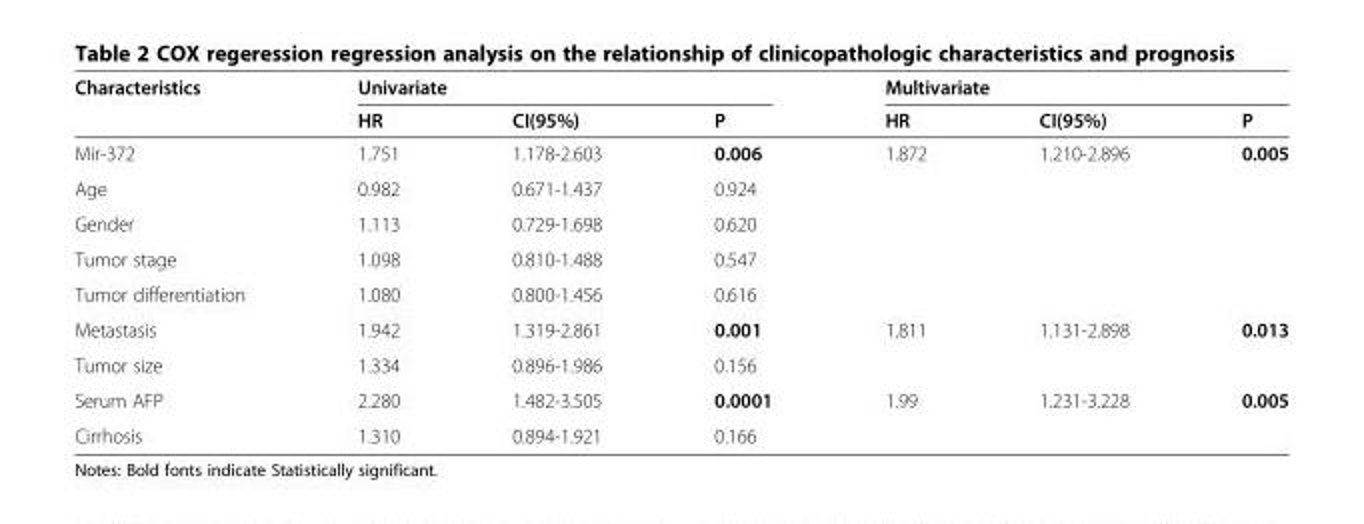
<table><thead><tr><td rowspan="2">Characteristics</td><td colspan="3">Univariate</td><td colspan="3">Multivariate</td></tr><tr><td>HR</td><td>CI(95%)</td><td>P</td><td>HR</td><td>CI(95%)</td><td>P</td></tr></thead><tbody><tr><td>Mir-372</td><td>1.751</td><td>1.178-2.603</td><td>0.006</td><td>1.872</td><td>1.210-2.896</td><td>0.005</td></tr><tr><td>Age</td><td>0.982</td><td>0.671-1.437</td><td>0.924</td><td></td><td></td><td></td></tr><tr><td>Gender</td><td>1.113</td><td>0.729-1.698</td><td>0.620</td><td></td><td></td><td></td></tr><tr><td>Tumor stage</td><td>1.098</td><td>0.810-1.488</td><td>0.547</td><td></td><td></td><td></td></tr><tr><td>Tumor differentiation</td><td>1.080</td><td>0.800-1.456</td><td>0.616</td><td></td><td></td><td></td></tr><tr><td>Metastasis</td><td>1.942</td><td>1.319-2.861</td><td>0.001</td><td>1.811</td><td>1.131-2.898</td><td>0.013</td></tr><tr><td>Tumor size</td><td>1.334</td><td>0.896-1.986</td><td>0.156</td><td></td><td></td><td></td></tr><tr><td>Serum AFP</td><td>2.280</td><td>1.482-3.505</td><td>0.0001</td><td>1.99</td><td>1.231-3.228</td><td>0.005</td></tr><tr><td>Cirrhosis</td><td>1.310</td><td>0.894-1.921</td><td>0.166</td><td></td><td></td><td></td></tr></tbody></table>